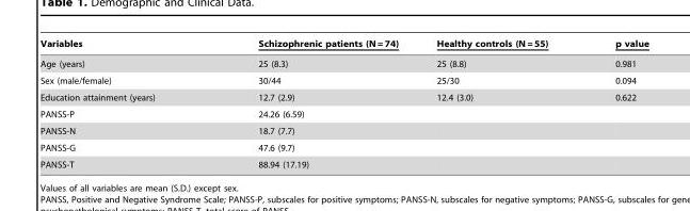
<table><thead><tr><td>Variables</td><td>Schizophrenic patients (N = 74)</td><td>Healthy controls (N = 55)</td><td>p value</td></tr></thead><tbody><tr><td>Age (years)</td><td>25 (8.3)</td><td>25 (8.8)</td><td>0.981</td></tr><tr><td>Sex (male/female)</td><td>30/44</td><td>25/30</td><td>0.094</td></tr><tr><td>Education attainment (years)</td><td>12.7 (2.9)</td><td>12.4 (3.0)</td><td>0.622</td></tr><tr><td>PANSS-P</td><td>24.26 (6.59)</td><td></td><td></td></tr><tr><td>PANSS-N</td><td>18.7 (7.7)</td><td></td><td></td></tr><tr><td>PANSS-G</td><td>47.6 (9.7)</td><td></td><td></td></tr><tr><td>PANSS-T</td><td>88.94 (17.19)</td><td></td><td></td></tr></tbody></table>